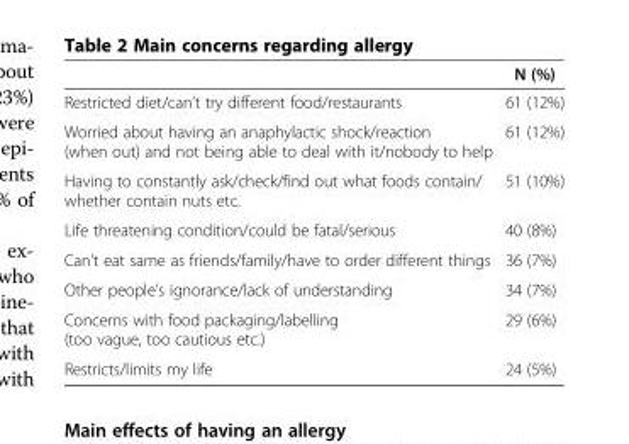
<table><thead><tr><td></td><td>N (%)</td></tr></thead><tbody><tr><td>Restricted diet/can’t try different food/restaurants</td><td>61 (12%)</td></tr><tr><td>Worried about having an anaphylactic shock/reaction (when out) and not being able to deal with it/nobody to help</td><td>61 (12%)</td></tr><tr><td>Having to constantly ask/check/find out what foods contain/ whether contain nuts etc.</td><td>51 (10%)</td></tr><tr><td>Life threatening condition/could be fatal/serious</td><td>40 (8%)</td></tr><tr><td>Can’t eat same as friends/family/have to order different things</td><td>36 (7%)</td></tr><tr><td>Other people’s ignorance/lack of understanding</td><td>34 (7%)</td></tr><tr><td>Concerns with food packaging/labelling (too vague, too cautious etc.)</td><td>29 (6%)</td></tr><tr><td>Restricts/limits my life</td><td>24 (5%)</td></tr></tbody></table>